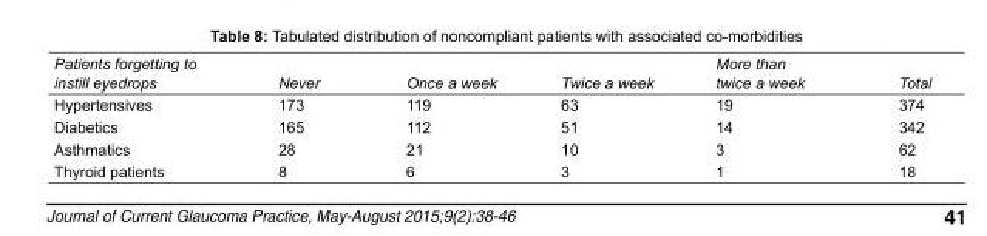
<table><tbody><tr><td>Patients forgetting to instill eyedrops</td><td>Never</td><td>Once a week</td><td>Twice a week</td><td>More than twice a week</td><td>Total</td></tr><tr><td>Hypertensives</td><td>173</td><td>119</td><td>63</td><td>19</td><td>374</td></tr><tr><td>Diabetics</td><td>165</td><td>112</td><td>51</td><td>14</td><td>342</td></tr><tr><td>Asthmatics</td><td>28</td><td>21</td><td>10</td><td>3</td><td>62</td></tr><tr><td>Thyroid patients</td><td>8</td><td>6</td><td>3</td><td>1</td><td>18</td></tr></tbody></table>